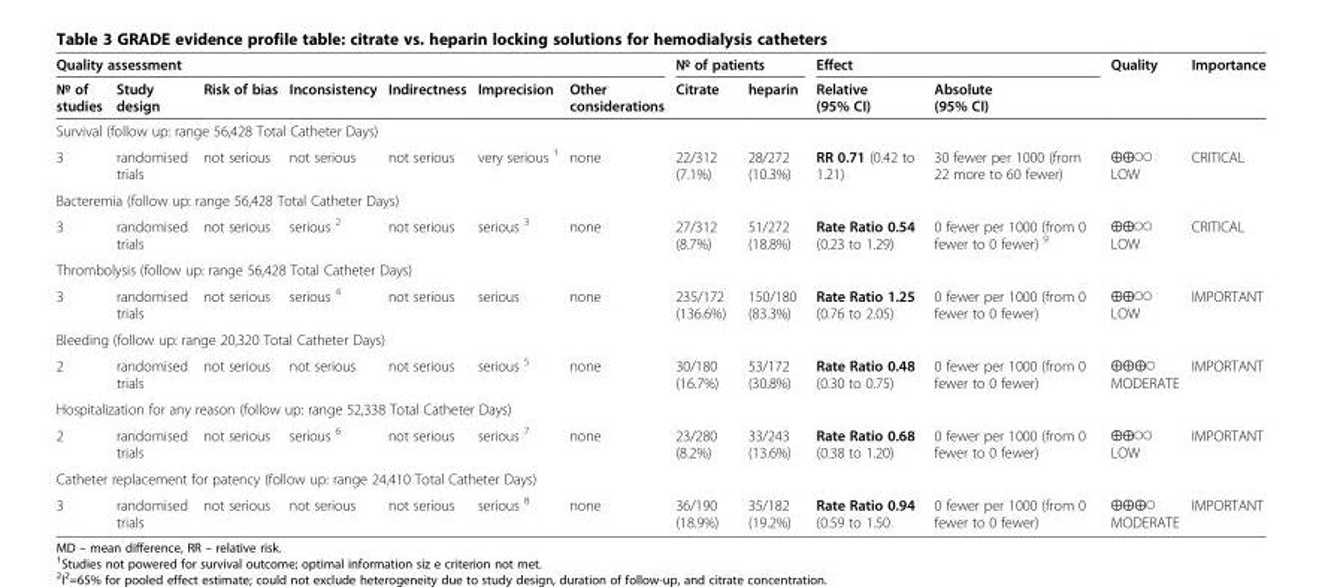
<table><thead><tr><td colspan="7">Quality assessment</td><td colspan="2">№ of patients</td><td colspan="2">Effect</td><td rowspan="2">Quality</td><td rowspan="2">Importance</td></tr><tr><td>№ of studies</td><td>Study design</td><td>Risk of bias</td><td>Inconsistency</td><td>Indirectness</td><td>Imprecision</td><td>Other considerations</td><td>Citrate</td><td>heparin</td><td>Relative (95% CI)</td><td>Absolute (95% CI)</td></tr></thead><tbody><tr><td colspan="13">Survival (follow up: range 56,428 Total Catheter Days)</td></tr><tr><td>3</td><td>randomised trials</td><td>not serious</td><td>not serious</td><td>not serious</td><td>very serious <sup>1</sup></td><td>none</td><td>22/312 (7.1%)</td><td>28/272 (10.3%)</td><td>RR 0.71 (0.42 to 1.21)</td><td>30 fewer per 1000 (from 22 more to 60 fewer)</td><td>⨁⨁◯◯ LOW</td><td>CRITICAL</td></tr><tr><td colspan="13">Bacteremia (follow up: range 56,428 Total Catheter Days)</td></tr><tr><td>3</td><td>randomised trials</td><td>not serious</td><td>serious <sup>2</sup></td><td>not serious</td><td>serious <sup>3</sup></td><td>none</td><td>27/312 (8.7%)</td><td>51/272 (18.8%)</td><td>Rate Ratio 0.54 (0.23 to 1.29)</td><td>0 fewer per 1000 (from 0 fewer to 0 fewer) <sup>9</sup></td><td>⨁⨁◯◯ LOW</td><td>CRITICAL</td></tr><tr><td colspan="13">Thrombolysis (follow up: range 56,428 Total Catheter Days)</td></tr><tr><td>3</td><td>randomised trials</td><td>not serious</td><td>serious <sup>4</sup></td><td>not serious</td><td>serious</td><td>none</td><td>235/172 (136.6%)</td><td>150/180 (83.3%)</td><td>Rate Ratio 1.25 (0.76 to 2.05)</td><td>0 fewer per 1000 (from 0 fewer to 0 fewer)</td><td>⨁⨁◯◯ LOW</td><td>IMPORTANT</td></tr><tr><td colspan="13">Bleeding (follow up: range 20,320 Total Catheter Days)</td></tr><tr><td>2</td><td>randomised trials</td><td>not serious</td><td>not serious</td><td>not serious</td><td>serious <sup>5</sup></td><td>none</td><td>30/180 (16.7%)</td><td>53/172 (30.8%)</td><td>Rate Ratio 0.48 (0.30 to 0.75)</td><td>0 fewer per 1000 (from 0 fewer to 0 fewer)</td><td>⨁⨁⨁◯ MODERATE</td><td>IMPORTANT</td></tr><tr><td colspan="13">Hospitalization for any reason (follow up: range 52,338 Total Catheter Days)</td></tr><tr><td>2</td><td>randomised trials</td><td>not serious</td><td>serious <sup>6</sup></td><td>not serious</td><td>serious <sup>7</sup></td><td>none</td><td>23/280 (8.2%)</td><td>33/243 (13.6%)</td><td>Rate Ratio 0.68 (0.38 to 1.20)</td><td>0 fewer per 1000 (from 0 fewer to 0 fewer)</td><td>⨁⨁◯◯ LOW</td><td>IMPORTANT</td></tr><tr><td colspan="13">Catheter replacement for patency (follow up: range 24,410 Total Catheter Days)</td></tr><tr><td>3</td><td>randomised trials</td><td>not serious</td><td>not serious</td><td>not serious</td><td>serious <sup>8</sup></td><td>none</td><td>36/190 (18.9%)</td><td>35/182 (19.2%)</td><td>Rate Ratio 0.94 (0.59 to 1.50</td><td>0 fewer per 1000 (from 0 fewer to 0 fewer)</td><td>⨁⨁⨁◯ MODERATE</td><td>IMPORTANT</td></tr></tbody></table>